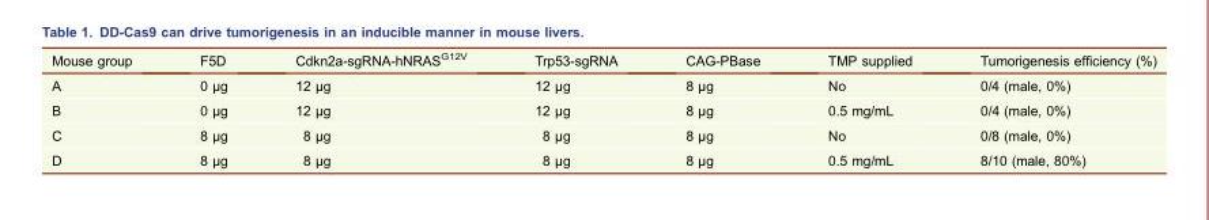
<table><thead><tr><td>Mouse group</td><td>F5D</td><td>Cdkn2a-sgRNA-hNRAS<sup>G12V</sup></td><td>Trp53-sgRNA</td><td>CAG-PBase</td><td>TMP supplied</td><td>Tumorigenesis efficiency (%)</td></tr></thead><tbody><tr><td>A</td><td>0 μg</td><td>12 μg</td><td>12 μg</td><td>8 μg</td><td>No</td><td>0/4 (male, 0%)</td></tr><tr><td>B</td><td>0 μg</td><td>12 μg</td><td>12 μg</td><td>8 μg</td><td>0.5 mg/mL</td><td>0/4 (male, 0%)</td></tr><tr><td>C</td><td>8 μg</td><td>8 μg</td><td>8 μg</td><td>8 μg</td><td>No</td><td>0/8 (male, 0%)</td></tr><tr><td>D</td><td>8 μg</td><td>8 μg</td><td>8 μg</td><td>8 μg</td><td>0.5 mg/mL</td><td>8/10 (male, 80%)</td></tr></tbody></table>